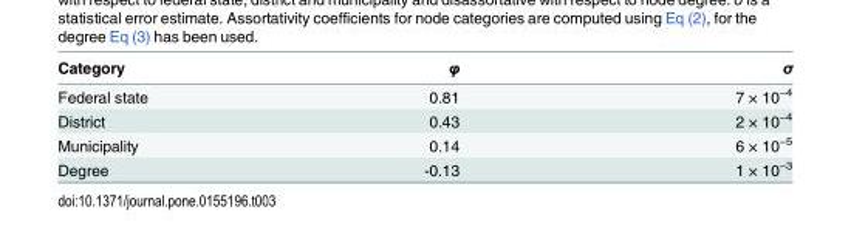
<table><thead><tr><td>Category</td><td>φ</td><td>σ</td></tr></thead><tbody><tr><td>Federal state</td><td>0.81</td><td>7 × 10<sup>−4</sup></td></tr><tr><td>District</td><td>0.43</td><td>2 × 10<sup>−4</sup></td></tr><tr><td>Municipality</td><td>0.14</td><td>6 × 10<sup>−5</sup></td></tr><tr><td>Degree</td><td>-0.13</td><td>1 × 10<sup>−3</sup></td></tr></tbody></table>